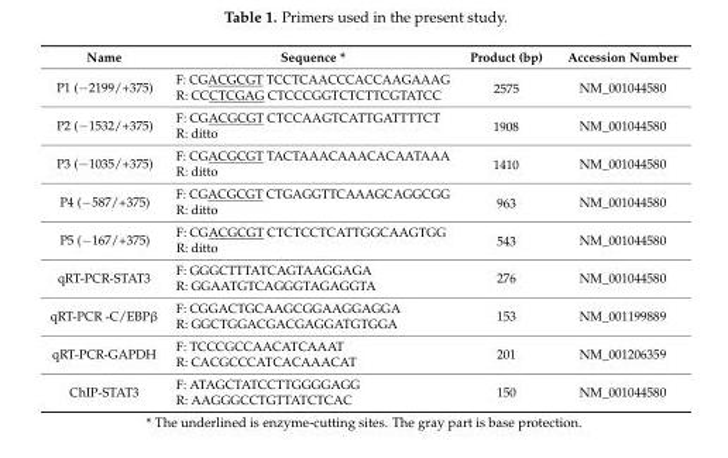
<table><thead><tr><td>Name</td><td>Sequence *</td><td>Product (bp)</td><td>Accession Number</td></tr></thead><tbody><tr><td rowspan="2">P1 (−2199/+375)</td><td>F: CGACGCGT TCCTCAACCCACCAAGAAAG</td><td rowspan="2">2575</td><td rowspan="2">NM_001044580</td></tr><tr><td>R: CCCTCGAG CTCCCGGTCTCTTCGTATCC</td></tr><tr><td rowspan="2">P2 (−1532/+375)</td><td>F: CGACGCGT CTCCAAGTCATTGATTTTCT</td><td rowspan="2">1908</td><td rowspan="2">NM_001044580</td></tr><tr><td>R: ditto</td></tr><tr><td rowspan="2">P3 (−1035/+375)</td><td>F: CGACGCGT TACTAAACAAACACAATAAA</td><td rowspan="2">1410</td><td rowspan="2">NM_001044580</td></tr><tr><td>R: ditto</td></tr><tr><td rowspan="2">P4 (−587/+375)</td><td>F: CGACGCGT CTGAGGTTCAAAGCAGGCGG</td><td rowspan="2">963</td><td rowspan="2">NM_001044580</td></tr><tr><td>R: ditto</td></tr><tr><td rowspan="2">P5 (−167/+375)</td><td>F: CGACGCGT CTCTCCTCATTGGCAAGTGG</td><td rowspan="2">543</td><td rowspan="2">NM_001044580</td></tr><tr><td>R: ditto</td></tr><tr><td>qRT-PCR-STAT3</td><td>F: GGGCTTTATCAGTAAGGAGA R: GGAATGTCAGGGTAGAGGTA</td><td>276</td><td>NM_001044580</td></tr><tr><td>qRT-PCR -C/EBPβ</td><td>F: CGGACTGCAAGCGGAAGGAGGA R: GGCTGGACGACGAGGATGTGGA</td><td>153</td><td>NM_001199889</td></tr><tr><td>qRT-PCR-GAPDH</td><td>F: TCCCGCCAACATCAAAT R: CACGCCCATCACAAACAT</td><td>201</td><td>NM_001206359</td></tr><tr><td>ChIP-STAT3</td><td>F: ATAGCTATCCTTGGGGAGG R: AAGGGCCTGTTATCTCAC</td><td>150</td><td>NM_001044580</td></tr></tbody></table>